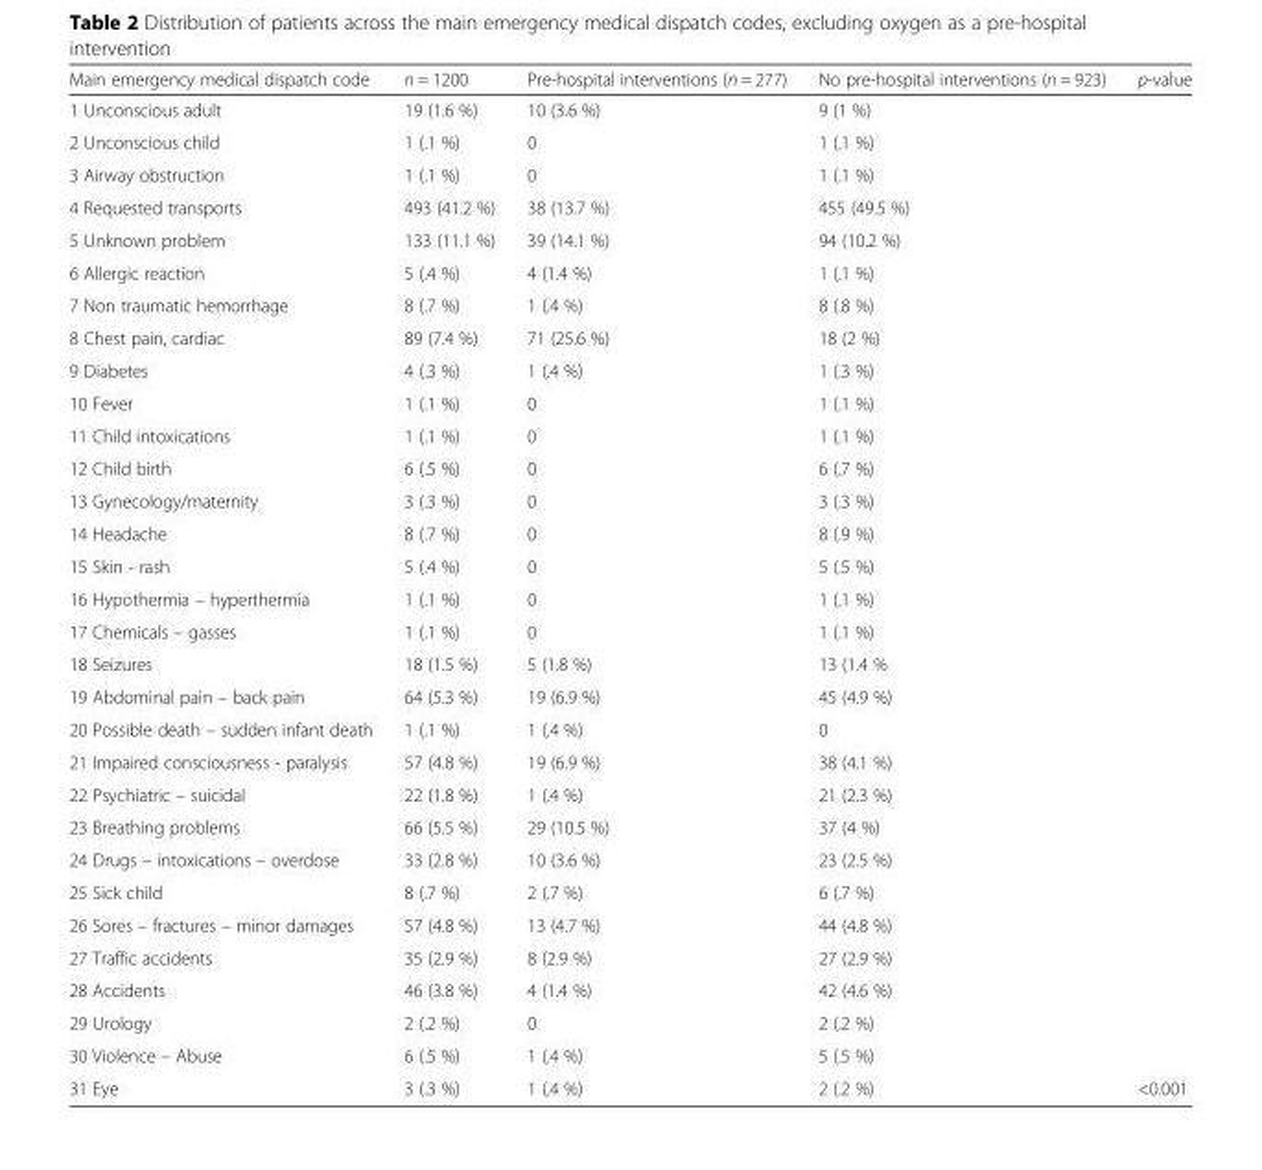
<table><thead><tr><td>Main emergency medical dispatch code</td><td>n = 1200</td><td>Pre-hospital interventions (n = 277)</td><td>No pre-hospital interventions (n = 923)</td><td>p-value</td></tr></thead><tbody><tr><td>1 Unconscious adult</td><td>19 (1.6 %)</td><td>10 (3.6 %)</td><td>9 (1 %)</td><td></td></tr><tr><td>2 Unconscious child</td><td>1 (.1 %)</td><td>0</td><td>1 (.1 %)</td><td></td></tr><tr><td>3 Airway obstruction</td><td>1 (.1 %)</td><td>0</td><td>1 (.1 %)</td><td></td></tr><tr><td>4 Requested transports</td><td>493 (41.2 %)</td><td>38 (13.7 %)</td><td>455 (49.5 %)</td><td></td></tr><tr><td>5 Unknown problem</td><td>133 (11.1 %)</td><td>39 (14.1 %)</td><td>94 (10.2 %)</td><td></td></tr><tr><td>6 Allergic reaction</td><td>5 (.4 %)</td><td>4 (1.4 %)</td><td>1 (.1 %)</td><td></td></tr><tr><td>7 Non traumatic hemorrhage</td><td>8 (.7 %)</td><td>1 (.4 %)</td><td>8 (.8 %)</td><td></td></tr><tr><td>8 Chest pain, cardiac</td><td>89 (7.4 %)</td><td>71 (25.6 %)</td><td>18 (2 %)</td><td></td></tr><tr><td>9 Diabetes</td><td>4 (.3 %)</td><td>1 (.4 %)</td><td>1 (.3 %)</td><td></td></tr><tr><td>10 Fever</td><td>1 (.1 %)</td><td>0</td><td>1 (.1 %)</td><td></td></tr><tr><td>11 Child intoxications</td><td>1 (.1 %)</td><td>0</td><td>1 (.1 %)</td><td></td></tr><tr><td>12 Child birth</td><td>6 (.5 %)</td><td>0</td><td>6 (.7 %)</td><td></td></tr><tr><td>13 Gynecology/maternity</td><td>3 (.3 %)</td><td>0</td><td>3 (.3 %)</td><td></td></tr><tr><td>14 Headache</td><td>8 (.7 %)</td><td>0</td><td>8 (.9 %)</td><td></td></tr><tr><td>15 Skin - rash</td><td>5 (.4 %)</td><td>0</td><td>5 (.5 %)</td><td></td></tr><tr><td>16 Hypothermia – hyperthermia</td><td>1 (.1 %)</td><td>0</td><td>1 (.1 %)</td><td></td></tr><tr><td>17 Chemicals – gasses</td><td>1 (.1 %)</td><td>0</td><td>1 (.1 %)</td><td></td></tr><tr><td>18 Seizures</td><td>18 (1.5 %)</td><td>5 (1.8 %)</td><td>13 (1.4 %</td><td></td></tr><tr><td>19 Abdominal pain – back pain</td><td>64 (5.3 %)</td><td>19 (6.9 %)</td><td>45 (4.9 %)</td><td></td></tr><tr><td>20 Possible death – sudden infant death</td><td>1 (.1 %)</td><td>1 (.4 %)</td><td>0</td><td></td></tr><tr><td>21 Impaired consciousness - paralysis</td><td>57 (4.8 %)</td><td>19 (6.9 %)</td><td>38 (4.1 %)</td><td></td></tr><tr><td>22 Psychiatric – suicidal</td><td>22 (1.8 %)</td><td>1 (.4 %)</td><td>21 (2.3 %)</td><td></td></tr><tr><td>23 Breathing problems</td><td>66 (5.5 %)</td><td>29 (10.5 %)</td><td>37 (4 %)</td><td></td></tr><tr><td>24 Drugs – intoxications – overdose</td><td>33 (2.8 %)</td><td>10 (3.6 %)</td><td>23 (2.5 %)</td><td></td></tr><tr><td>25 Sick child</td><td>8 (.7 %)</td><td>2 (.7 %)</td><td>6 (.7 %)</td><td></td></tr><tr><td>26 Sores – fractures – minor damages</td><td>57 (4.8 %)</td><td>13 (4.7 %)</td><td>44 (4.8 %)</td><td></td></tr><tr><td>27 Traffic accidents</td><td>35 (2.9 %)</td><td>8 (2.9 %)</td><td>27 (2.9 %)</td><td></td></tr><tr><td>28 Accidents</td><td>46 (3.8 %)</td><td>4 (1.4 %)</td><td>42 (4.6 %)</td><td></td></tr><tr><td>29 Urology</td><td>2 (.2 %)</td><td>0</td><td>2 (.2 %)</td><td></td></tr><tr><td>30 Violence – Abuse</td><td>6 (.5 %)</td><td>1 (.4 %)</td><td>5 (.5 %)</td><td></td></tr><tr><td>31 Eye</td><td>3 (.3 %)</td><td>1 (.4 %)</td><td>2 (.2 %)</td><td>&lt;0.001</td></tr></tbody></table>